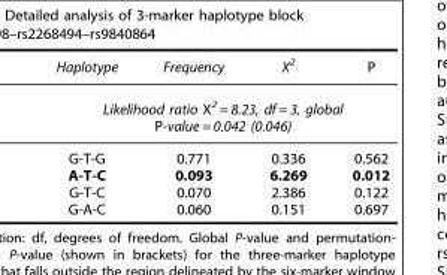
<table><thead><tr><td>Haplotype</td><td>Frequency</td><td>X<sup>2</sup></td><td>P</td></tr><tr><td colspan="4">Likelihood ratio X<sup>2</sup> = 8.23, df = 3, global P-value = 0.042 (0.046)</td></tr></thead><tbody><tr><td>G-T-G</td><td>0.771</td><td>0.336</td><td>0.562</td></tr><tr><td>A-T-C</td><td>0.093</td><td>6.269</td><td>0.012</td></tr><tr><td>G-T-C</td><td>0.070</td><td>2.386</td><td>0.122</td></tr><tr><td>G-A-C</td><td>0.060</td><td>0.151</td><td>0.697</td></tr></tbody></table>